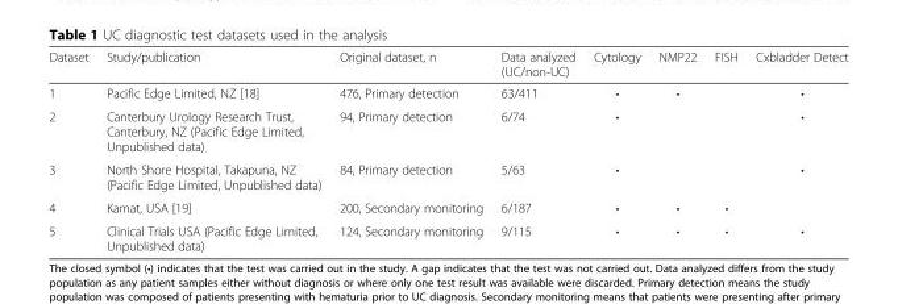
<table><thead><tr><td>Dataset</td><td>Study/publication</td><td>Original dataset, n</td><td>Data analyzed (UC/non-UC)</td><td>Cytology</td><td>NMP22</td><td>FISH</td><td>Cxbladder Detect</td></tr></thead><tbody><tr><td>1</td><td>Pacific Edge Limited, NZ [18]</td><td>476, Primary detection</td><td>63/411</td><td>•</td><td>•</td><td></td><td>•</td></tr><tr><td>2</td><td>Canterbury Urology Research Trust, Canterbury, NZ (Pacific Edge Limited, Unpublished data)</td><td>94, Primary detection</td><td>6/74</td><td>•</td><td></td><td></td><td>•</td></tr><tr><td>3</td><td>North Shore Hospital, Takapuna, NZ (Pacific Edge Limited, Unpublished data)</td><td>84, Primary detection</td><td>5/63</td><td>•</td><td></td><td></td><td>•</td></tr><tr><td>4</td><td>Kamat, USA [19]</td><td>200, Secondary monitoring</td><td>6/187</td><td>•</td><td>•</td><td>•</td><td></td></tr><tr><td>5</td><td>Clinical Trials USA (Pacific Edge Limited, Unpublished data)</td><td>124, Secondary monitoring</td><td>9/115</td><td>•</td><td>•</td><td>•</td><td>•</td></tr></tbody></table>